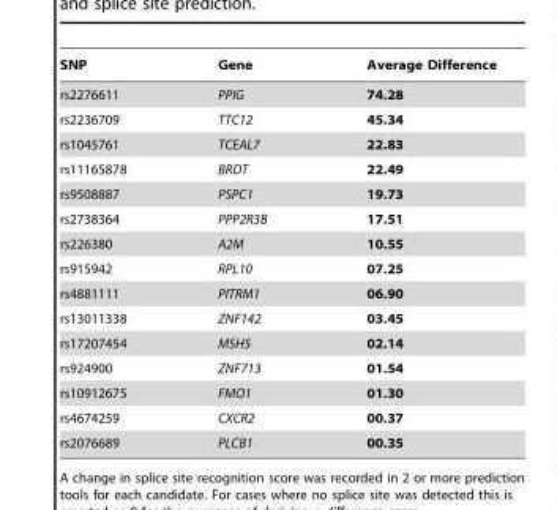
<table><thead><tr><td>SNP</td><td>Gene</td><td>Average Difference</td></tr></thead><tbody><tr><td>rs2276611</td><td>PPIG</td><td>74.28</td></tr><tr><td>rs2236709</td><td>TTC12</td><td>45.34</td></tr><tr><td>rs1045761</td><td>TCEAL7</td><td>22.83</td></tr><tr><td>rs11165878</td><td>BRDT</td><td>22.49</td></tr><tr><td>rs9508887</td><td>PSPC1</td><td>19.73</td></tr><tr><td>rs2738364</td><td>PPP2R3B</td><td>17.51</td></tr><tr><td>rs226380</td><td>A2M</td><td>10.55</td></tr><tr><td>rs915942</td><td>RPL10</td><td>07.25</td></tr><tr><td>rs4881111</td><td>PITRM1</td><td>06.90</td></tr><tr><td>rs13011338</td><td>ZNF142</td><td>03.45</td></tr><tr><td>rs17207454</td><td>MSH5</td><td>02.14</td></tr><tr><td>rs924900</td><td>ZNF713</td><td>01.54</td></tr><tr><td>rs10912675</td><td>FMO1</td><td>01.30</td></tr><tr><td>rs4674259</td><td>CXCR2</td><td>00.37</td></tr><tr><td>rs2076689</td><td>PLCB1</td><td>00.35</td></tr></tbody></table>